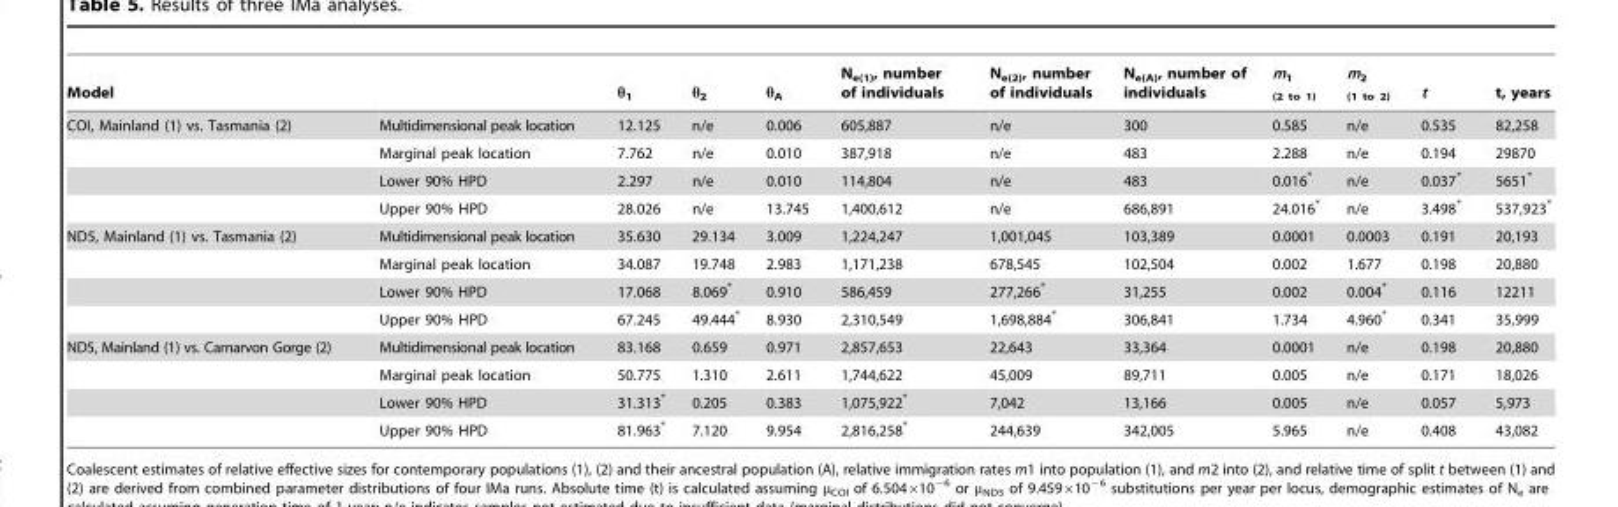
<table><thead><tr><td>Model</td><td></td><td>θ<sub>1</sub></td><td>θ<sub>2</sub></td><td>θ<sub>A</sub></td><td>N<sub>e(1)</sub>, number of individuals</td><td>N<sub>e(2)</sub>, number of individuals</td><td>N<sub>e(A)</sub>, number of individuals</td><td>m<sub>1 (2 to 1)</sub></td><td>m<sub>2 (1 to 2)</sub></td><td>t</td><td>t, years</td></tr></thead><tbody><tr><td rowspan="4">COI, Mainland (1) vs. Tasmania (2)</td><td>Multidimensional peak location</td><td>12.125</td><td>n/e</td><td>0.006</td><td>605,887</td><td>n/e</td><td>300</td><td>0.585</td><td>n/e</td><td>0.535</td><td>82,258</td></tr><tr><td>Marginal peak location</td><td>7.762</td><td>n/e</td><td>0.010</td><td>387,918</td><td>n/e</td><td>483</td><td>2.288</td><td>n/e</td><td>0.194</td><td>29870</td></tr><tr><td>Lower 90% HPD</td><td>2.297</td><td>n/e</td><td>0.010</td><td>114,804</td><td>n/e</td><td>483</td><td>0.016*</td><td>n/e</td><td>0.037*</td><td>5651*</td></tr><tr><td>Upper 90% HPD</td><td>28.026</td><td>n/e</td><td>13.745</td><td>1,400,612</td><td>n/e</td><td>686,891</td><td>24.016*</td><td>n/e</td><td>3.498*</td><td>537,923*</td></tr><tr><td rowspan="4">ND5, Mainland (1) vs. Tasmania (2)</td><td>Multidimensional peak location</td><td>35.630</td><td>29.134</td><td>3.009</td><td>1,224,247</td><td>1,001,045</td><td>103,389</td><td>0.0001</td><td>0.0003</td><td>0.191</td><td>20,193</td></tr><tr><td>Marginal peak location</td><td>34.087</td><td>19.748</td><td>2.983</td><td>1,171,238</td><td>678,545</td><td>102,504</td><td>0.002</td><td>1.677</td><td>0.198</td><td>20,880</td></tr><tr><td>Lower 90% HPD</td><td>17.068</td><td>8.069*</td><td>0.910</td><td>586,459</td><td>277,266*</td><td>31,255</td><td>0.002</td><td>0.004*</td><td>0.116</td><td>12211</td></tr><tr><td>Upper 90% HPD</td><td>67.245</td><td>49.444*</td><td>8.930</td><td>2,310,549</td><td>1,698,884*</td><td>306,841</td><td>1.734</td><td>4.960*</td><td>0.341</td><td>35,999</td></tr><tr><td rowspan="4">ND5, Mainland (1) vs. Carnarvon Gorge (2)</td><td>Multidimensional peak location</td><td>83.168</td><td>0.659</td><td>0.971</td><td>2,857,653</td><td>22,643</td><td>33,364</td><td>0.0001</td><td>n/e</td><td>0.198</td><td>20,880</td></tr><tr><td>Marginal peak location</td><td>50.775</td><td>1.310</td><td>2.611</td><td>1,744,622</td><td>45,009</td><td>89,711</td><td>0.005</td><td>n/e</td><td>0.171</td><td>18,026</td></tr><tr><td>Lower 90% HPD</td><td>31.313*</td><td>0.205</td><td>0.383</td><td>1,075,922*</td><td>7,042</td><td>13,166</td><td>0.005</td><td>n/e</td><td>0.057</td><td>5,973</td></tr><tr><td>Upper 90% HPD</td><td>81.963*</td><td>7.120</td><td>9.954</td><td>2,816,258*</td><td>244,639</td><td>342,005</td><td>5.965</td><td>n/e</td><td>0.408</td><td>43,082</td></tr></tbody></table>